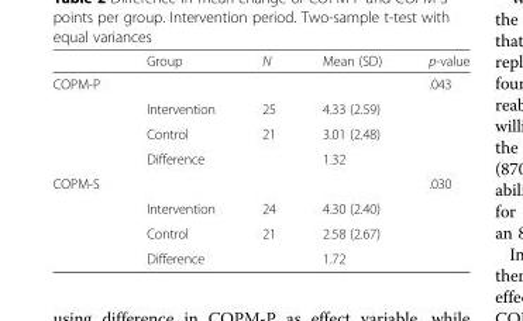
<table><thead><tr><td></td><td>Group</td><td>N</td><td>Mean (SD)</td><td>p-value</td></tr></thead><tbody><tr><td rowspan="4">COPM-P</td><td></td><td></td><td></td><td>.043</td></tr><tr><td>Intervention</td><td>25</td><td>4.33 (2.59)</td><td></td></tr><tr><td>Control</td><td>21</td><td>3.01 (2.48)</td><td></td></tr><tr><td>Difference</td><td></td><td>1.32</td><td></td></tr><tr><td rowspan="4">COPM-S</td><td></td><td></td><td></td><td>.030</td></tr><tr><td>Intervention</td><td>24</td><td>4.30 (2.40)</td><td></td></tr><tr><td>Control</td><td>21</td><td>2.58 (2.67)</td><td></td></tr><tr><td>Difference</td><td></td><td>1.72</td><td></td></tr></tbody></table>